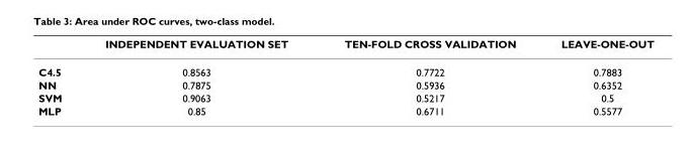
<table><thead><tr><td></td><td>INDEPENDENT EVALUATION SET</td><td>TEN-FOLD CROSS VALIDATION</td><td>LEAVE-ONE-OUT</td></tr></thead><tbody><tr><td>C4.5</td><td>0.8563</td><td>0.7722</td><td>0.7883</td></tr><tr><td>NN</td><td>0.7875</td><td>0.5936</td><td>0.6352</td></tr><tr><td>SVM</td><td>0.9063</td><td>0.5217</td><td>0.5</td></tr><tr><td>MLP</td><td>0.85</td><td>0.6711</td><td>0.5577</td></tr></tbody></table>